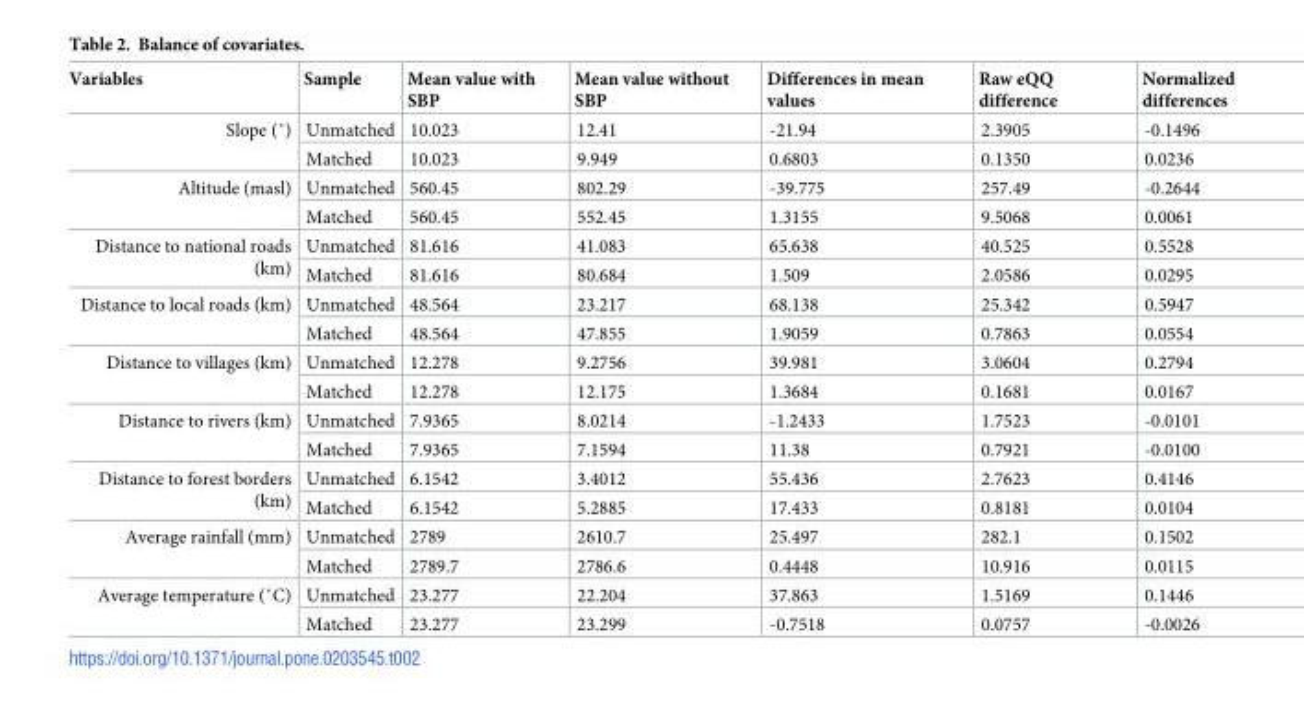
<table><thead><tr><td>Variables</td><td>Sample</td><td>Mean value with SBP</td><td>Mean value without SBP</td><td>Differences in mean values</td><td>Raw eQQ difference</td><td>Normalized differences</td></tr></thead><tbody><tr><td rowspan="2">Slope (˚)</td><td>Unmatched</td><td>10.023</td><td>12.41</td><td>-21.94</td><td>2.3905</td><td>-0.1496</td></tr><tr><td>Matched</td><td>10.023</td><td>9.949</td><td>0.6803</td><td>0.1350</td><td>0.0236</td></tr><tr><td rowspan="2">Altitude (masl)</td><td>Unmatched</td><td>560.45</td><td>802.29</td><td>-39.775</td><td>257.49</td><td>-0.2644</td></tr><tr><td>Matched</td><td>560.45</td><td>552.45</td><td>1.3155</td><td>9.5068</td><td>0.0061</td></tr><tr><td rowspan="2">Distance to national roads (km)</td><td>Unmatched</td><td>81.616</td><td>41.083</td><td>65.638</td><td>40.525</td><td>0.5528</td></tr><tr><td>Matched</td><td>81.616</td><td>80.684</td><td>1.509</td><td>2.0586</td><td>0.0295</td></tr><tr><td rowspan="2">Distance to local roads (km)</td><td>Unmatched</td><td>48.564</td><td>23.217</td><td>68.138</td><td>25.342</td><td>0.5947</td></tr><tr><td>Matched</td><td>48.564</td><td>47.855</td><td>1.9059</td><td>0.7863</td><td>0.0554</td></tr><tr><td rowspan="2">Distance to villages (km)</td><td>Unmatched</td><td>12.278</td><td>9.2756</td><td>39.981</td><td>3.0604</td><td>0.2794</td></tr><tr><td>Matched</td><td>12.278</td><td>12.175</td><td>1.3684</td><td>0.1681</td><td>0.0167</td></tr><tr><td rowspan="2">Distance to rivers (km)</td><td>Unmatched</td><td>7.9365</td><td>8.0214</td><td>-1.2433</td><td>1.7523</td><td>-0.0101</td></tr><tr><td>Matched</td><td>7.9365</td><td>7.1594</td><td>11.38</td><td>0.7921</td><td>-0.0100</td></tr><tr><td rowspan="2">Distance to forest borders (km)</td><td>Unmatched</td><td>6.1542</td><td>3.4012</td><td>55.436</td><td>2.7623</td><td>0.4146</td></tr><tr><td>Matched</td><td>6.1542</td><td>5.2885</td><td>17.433</td><td>0.8181</td><td>0.0104</td></tr><tr><td rowspan="2">Average rainfall (mm)</td><td>Unmatched</td><td>2789</td><td>2610.7</td><td>25.497</td><td>282.1</td><td>0.1502</td></tr><tr><td>Matched</td><td>2789.7</td><td>2786.6</td><td>0.4448</td><td>10.916</td><td>0.0115</td></tr><tr><td rowspan="2">Average temperature (˚C)</td><td>Unmatched</td><td>23.277</td><td>22.204</td><td>37.863</td><td>1.5169</td><td>0.1446</td></tr><tr><td>Matched</td><td>23.277</td><td>23.299</td><td>-0.7518</td><td>0.0757</td><td>-0.0026</td></tr></tbody></table>